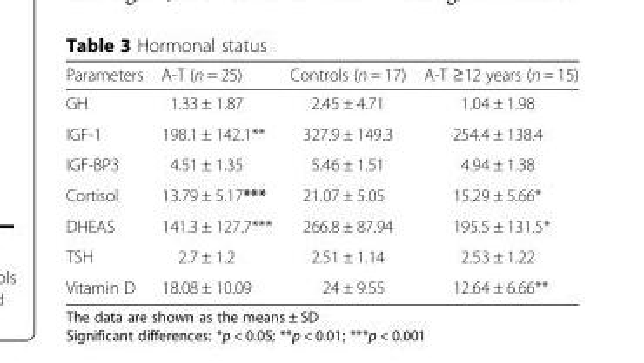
<table><thead><tr><td>Parameters</td><td>A-T (n = 25)</td><td>Controls (n = 17)</td><td>A-T ≥12 years (n = 15)</td></tr></thead><tbody><tr><td>GH</td><td>1.33 ± 1.87</td><td>2.45 ± 4.71</td><td>1.04 ± 1.98</td></tr><tr><td>IGF-1</td><td>198.1 ± 142.1**</td><td>327.9 ± 149.3</td><td>254.4 ± 138.4</td></tr><tr><td>IGF-BP3</td><td>4.51 ± 1.35</td><td>5.46 ± 1.51</td><td>4.94 ± 1.38</td></tr><tr><td>Cortisol</td><td>13.79 ± 5.17***</td><td>21.07 ± 5.05</td><td>15.29 ± 5.66*</td></tr><tr><td>DHEAS</td><td>141.3 ± 127.7***</td><td>266.8 ± 87.94</td><td>195.5 ± 131.5*</td></tr><tr><td>TSH</td><td>2.7 ± 1.2</td><td>2.51 ± 1.14</td><td>2.53 ± 1.22</td></tr><tr><td>Vitamin D</td><td>18.08 ± 10.09</td><td>24 ± 9.55</td><td>12.64 ± 6.66**</td></tr></tbody></table>